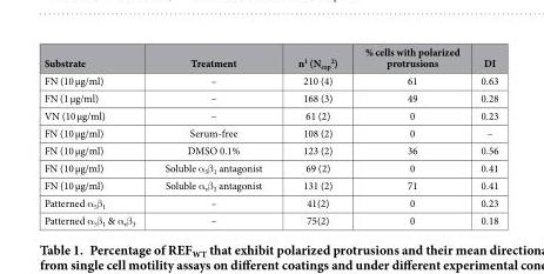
<table><thead><tr><td>Substrate</td><td>Treatment</td><td>n<sup>1</sup> (N<sub>exp</sub> <sup>2</sup>)</td><td>% cells with polarized protrusions</td><td>DI</td></tr></thead><tbody><tr><td>FN (10 μg/ml)</td><td>–</td><td>210 (4)</td><td>61</td><td>0.63</td></tr><tr><td>FN (1 μg/ml)</td><td>–</td><td>168 (3)</td><td>49</td><td>0.28</td></tr><tr><td>VN (10 μg/ml)</td><td>–</td><td>61 (2)</td><td>0</td><td>0.23</td></tr><tr><td>FN (10 μg/ml)</td><td>Serum-free</td><td>108 (2)</td><td>0</td><td>–</td></tr><tr><td>FN (10 μg/ml)</td><td>DMSO 0.1%</td><td>123 (2)</td><td>36</td><td>0.56</td></tr><tr><td>FN (10 μg/ml)</td><td>Soluble α<sub>5</sub>β<sub>1</sub> antagonist</td><td>69 (2)</td><td>0</td><td>0.41</td></tr><tr><td>FN (10 μg/ml)</td><td>Soluble α<sub>v</sub>β<sub>3</sub> antagonist</td><td>131 (2)</td><td>71</td><td>0.41</td></tr><tr><td>Patterned α<sub>5</sub>β<sub>1</sub></td><td>–</td><td>41(2)</td><td>0</td><td>0.23</td></tr><tr><td>Patterned α<sub>5</sub>β<sub>1</sub> &amp; α<sub>v</sub>β<sub>3</sub></td><td>–</td><td>75(2)</td><td>0</td><td>0.18</td></tr></tbody></table>